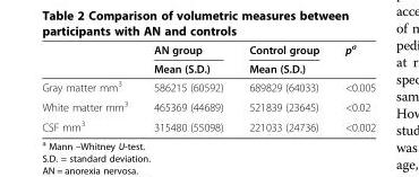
<table><thead><tr><td rowspan="2"></td><td rowspan="2">AN group Mean (S.D.)</td><td rowspan="2">Control group Mean (S.D.)</td><td rowspan="2">p<sup>a</sup></td></tr><tr></tr></thead><tbody><tr><td>Gray matter mm<sup>3</sup></td><td>586215 (60592)</td><td>689829 (64033)</td><td>&lt;0.005</td></tr><tr><td>White matter mm<sup>3</sup></td><td>465369 (44689)</td><td>521839 (23645)</td><td>&lt;0.02</td></tr><tr><td>CSF mm<sup>3</sup></td><td>315480 (55098)</td><td>221033 (24736)</td><td>&lt;0.002</td></tr></tbody></table>